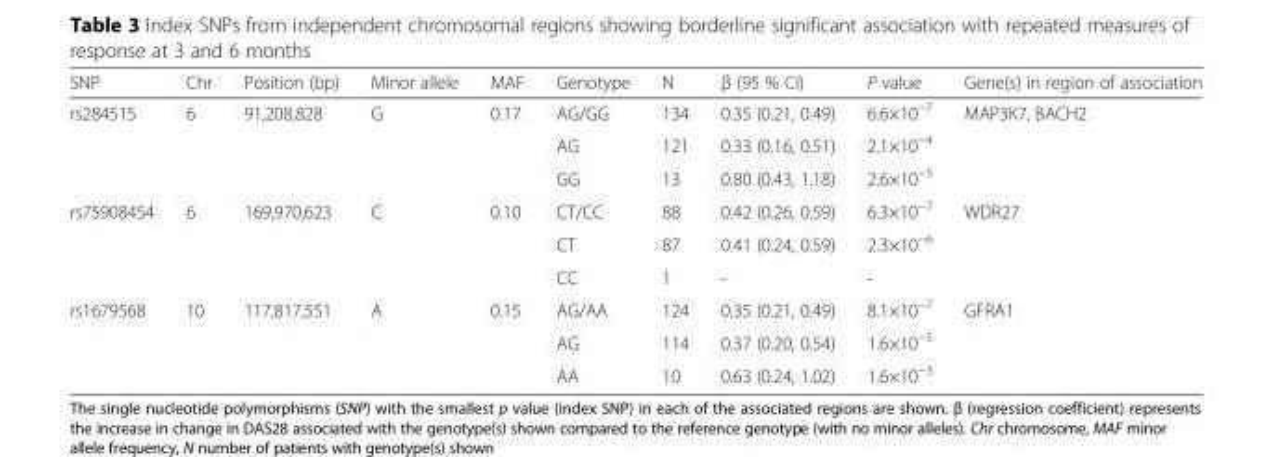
<table><thead><tr><td>SNP</td><td>Chr</td><td>Position (bp)</td><td>Minor allele</td><td>MAF</td><td>Genotype</td><td>N</td><td>β (95 % CI)</td><td>P value</td><td>Gene(s) in region of association</td></tr></thead><tbody><tr><td rowspan="3">rs284515</td><td>6</td><td>91,208,828</td><td>G</td><td>0.17</td><td>AG/GG</td><td>134</td><td>0.35 (0.21, 0.49)</td><td>6.6×10<sup>−7</sup></td><td rowspan="3">MAP3K7, BACH2</td></tr><tr><td></td><td></td><td></td><td></td><td>AG</td><td>121</td><td>0.33 (0.16, 0.51)</td><td>2.1×10<sup>−4</sup></td></tr><tr><td></td><td></td><td></td><td></td><td>GG</td><td>13</td><td>0.80 (0.43, 1.18)</td><td>2.6×10<sup>−5</sup></td></tr><tr><td rowspan="3">rs75908454</td><td>6</td><td>169,970,623</td><td>C</td><td>0.10</td><td>CT/CC</td><td>88</td><td>0.42 (0.26, 0.59)</td><td>6.3×10<sup>−7</sup></td><td rowspan="3">WDR27</td></tr><tr><td></td><td></td><td></td><td></td><td>CT</td><td>87</td><td>0.41 (0.24, 0.59)</td><td>2.3×10<sup>−6</sup></td></tr><tr><td></td><td></td><td></td><td></td><td>CC</td><td>1</td><td>-</td><td>-</td></tr><tr><td rowspan="3">rs1679568</td><td>10</td><td>117,817,551</td><td>A</td><td>0.15</td><td>AG/AA</td><td>124</td><td>0.35 (0.21, 0.49)</td><td>8.1×10<sup>−7</sup></td><td rowspan="3">GFRA1</td></tr><tr><td></td><td></td><td></td><td></td><td>AG</td><td>114</td><td>0.37 (0.20, 0.54)</td><td>1.6×10<sup>−5</sup></td></tr><tr><td></td><td></td><td></td><td></td><td>AA</td><td>10</td><td>0.63 (0.24, 1.02)</td><td>1.6×10<sup>−3</sup></td></tr></tbody></table>